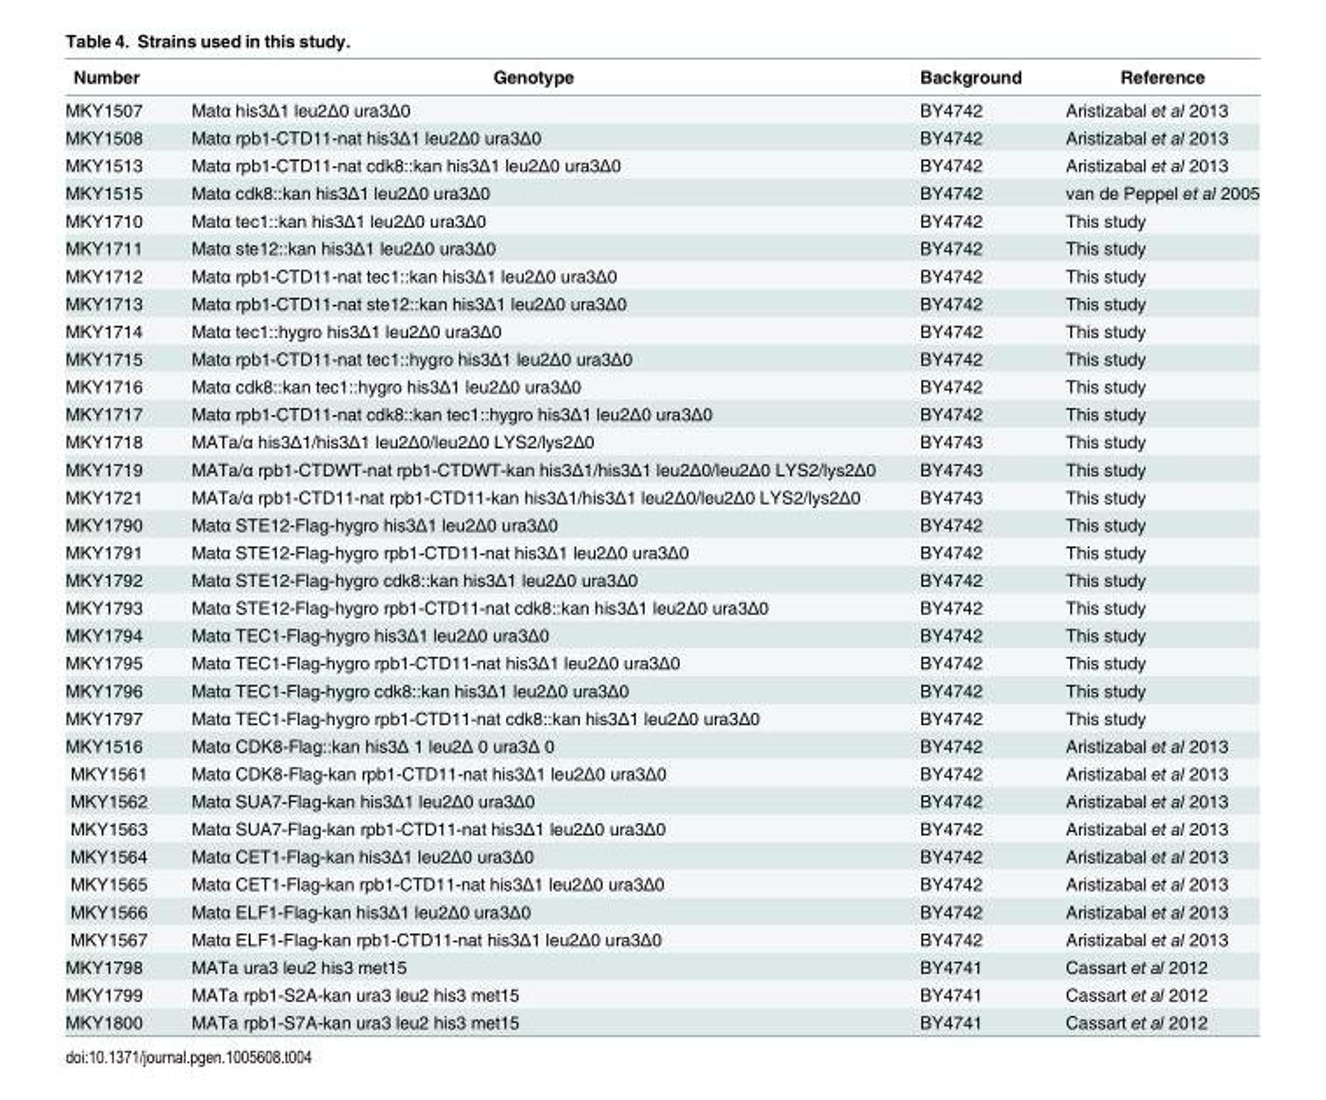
<table><thead><tr><td>Number</td><td>Genotype</td><td>Background</td><td>Reference</td></tr></thead><tbody><tr><td>MKY1507</td><td>Matα his3Δ1 leu2Δ0 ura3Δ0</td><td>BY4742</td><td>Aristizabal et al 2013</td></tr><tr><td>MKY1508</td><td>Matα rpb1-CTD11-nat his3Δ1 leu2Δ0 ura3Δ0</td><td>BY4742</td><td>Aristizabal et al 2013</td></tr><tr><td>MKY1513</td><td>Matα rpb1-CTD11-nat cdk8::kan his3Δ1 leu2Δ0 ura3Δ0</td><td>BY4742</td><td>Aristizabal et al 2013</td></tr><tr><td>MKY1515</td><td>Matα cdk8::kan his3Δ1 leu2Δ0 ura3Δ0</td><td>BY4742</td><td>van de Peppel et al 2005</td></tr><tr><td>MKY1710</td><td>Matα tec1::kan his3Δ1 leu2Δ0 ura3Δ0</td><td>BY4742</td><td>This study</td></tr><tr><td>MKY1711</td><td>Matα ste12::kan his3Δ1 leu2Δ0 ura3Δ0</td><td>BY4742</td><td>This study</td></tr><tr><td>MKY1712</td><td>Matα rpb1-CTD11-nat tec1::kan his3Δ1 leu2Δ0 ura3Δ0</td><td>BY4742</td><td>This study</td></tr><tr><td>MKY1713</td><td>Matα rpb1-CTD11-nat ste12::kan his3Δ1 leu2Δ0 ura3Δ0</td><td>BY4742</td><td>This study</td></tr><tr><td>MKY1714</td><td>Matα tec1::hygro his3Δ1 leu2Δ0 ura3Δ0</td><td>BY4742</td><td>This study</td></tr><tr><td>MKY1715</td><td>Matα rpb1-CTD11-nat tec1::hygro his3Δ1 leu2Δ0 ura3Δ0</td><td>BY4742</td><td>This study</td></tr><tr><td>MKY1716</td><td>Matα cdk8::kan tec1::hygro his3Δ1 leu2Δ0 ura3Δ0</td><td>BY4742</td><td>This study</td></tr><tr><td>MKY1717</td><td>Matα rpb1-CTD11-nat cdk8::kan tec1::hygro his3Δ1 leu2Δ0 ura3Δ0</td><td>BY4742</td><td>This study</td></tr><tr><td>MKY1718</td><td>MATa/α his3Δ1/his3Δ1 leu2Δ0/leu2Δ0 LYS2/lys2Δ0</td><td>BY4743</td><td>This study</td></tr><tr><td>MKY1719</td><td>MATa/α rpb1-CTDWT-nat rpb1-CTDWT-kan his3Δ1/his3Δ1 leu2Δ0/leu2Δ0 LYS2/lys2Δ0</td><td>BY4743</td><td>This study</td></tr><tr><td>MKY1721</td><td>MATa/α rpb1-CTD11-nat rpb1-CTD11-kan his3Δ1/his3Δ1 leu2Δ0/leu2Δ0 LYS2/lys2Δ0</td><td>BY4743</td><td>This study</td></tr><tr><td>MKY1790</td><td>Matα STE12-Flag-hygro his3Δ1 leu2Δ0 ura3Δ0</td><td>BY4742</td><td>This study</td></tr><tr><td>MKY1791</td><td>Matα STE12-Flag-hygro rpb1-CTD11-nat his3Δ1 leu2Δ0 ura3Δ0</td><td>BY4742</td><td>This study</td></tr><tr><td>MKY1792</td><td>Matα STE12-Flag-hygro cdk8::kan his3Δ1 leu2Δ0 ura3Δ0</td><td>BY4742</td><td>This study</td></tr><tr><td>MKY1793</td><td>Matα STE12-Flag-hygro rpb1-CTD11-nat cdk8::kan his3Δ1 leu2Δ0 ura3Δ0</td><td>BY4742</td><td>This study</td></tr><tr><td>MKY1794</td><td>Matα TEC1-Flag-hygro his3Δ1 leu2Δ0 ura3Δ0</td><td>BY4742</td><td>This study</td></tr><tr><td>MKY1795</td><td>Matα TEC1-Flag-hygro rpb1-CTD11-nat his3Δ1 leu2Δ0 ura3Δ0</td><td>BY4742</td><td>This study</td></tr><tr><td>MKY1796</td><td>Matα TEC1-Flag-hygro cdk8::kan his3Δ1 leu2Δ0 ura3Δ0</td><td>BY4742</td><td>This study</td></tr><tr><td>MKY1797</td><td>Matα TEC1-Flag-hygro rpb1-CTD11-nat cdk8::kan his3Δ1 leu2Δ0 ura3Δ0</td><td>BY4742</td><td>This study</td></tr><tr><td>MKY1516</td><td>Matα CDK8-Flag::kan his3Δ 1 leu2Δ 0 ura3Δ 0</td><td>BY4742</td><td>Aristizabal et al 2013</td></tr><tr><td>MKY1561</td><td>Matα CDK8-Flag-kan rpb1-CTD11-nat his3Δ1 leu2Δ0 ura3Δ0</td><td>BY4742</td><td>Aristizabal et al 2013</td></tr><tr><td>MKY1562</td><td>Matα SUA7-Flag-kan his3Δ1 leu2Δ0 ura3Δ0</td><td>BY4742</td><td>Aristizabal et al 2013</td></tr><tr><td>MKY1563</td><td>Matα SUA7-Flag-kan rpb1-CTD11-nat his3Δ1 leu2Δ0 ura3Δ0</td><td>BY4742</td><td>Aristizabal et al 2013</td></tr><tr><td>MKY1564</td><td>Matα CET1-Flag-kan his3Δ1 leu2Δ0 ura3Δ0</td><td>BY4742</td><td>Aristizabal et al 2013</td></tr><tr><td>MKY1565</td><td>Matα CET1-Flag-kan rpb1-CTD11-nat his3Δ1 leu2Δ0 ura3Δ0</td><td>BY4742</td><td>Aristizabal et al 2013</td></tr><tr><td>MKY1566</td><td>Matα ELF1-Flag-kan his3Δ1 leu2Δ0 ura3Δ0</td><td>BY4742</td><td>Aristizabal et al 2013</td></tr><tr><td>MKY1567</td><td>Matα ELF1-Flag-kan rpb1-CTD11-nat his3Δ1 leu2Δ0 ura3Δ0</td><td>BY4742</td><td>Aristizabal et al 2013</td></tr><tr><td>MKY1798</td><td>MATa ura3 leu2 his3 met15</td><td>BY4741</td><td>Cassart et al 2012</td></tr><tr><td>MKY1799</td><td>MATa rpb1-S2A-kan ura3 leu2 his3 met15</td><td>BY4741</td><td>Cassart et al 2012</td></tr><tr><td>MKY1800</td><td>MATa rpb1-S7A-kan ura3 leu2 his3 met15</td><td>BY4741</td><td>Cassart et al 2012</td></tr></tbody></table>